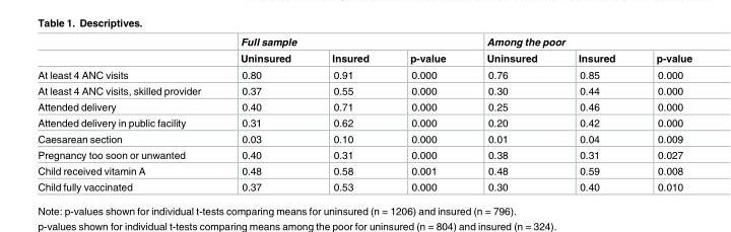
<table><thead><tr><td rowspan="2"></td><td colspan="3">Full sample</td><td colspan="2">Among the poor</td><td rowspan="2">p-value</td></tr><tr><td>Uninsured</td><td>Insured</td><td>p-value</td><td>Uninsured</td><td>Insured</td></tr></thead><tbody><tr><td>At least 4 ANC visits</td><td>0.80</td><td>0.91</td><td>0.000</td><td>0.76</td><td>0.85</td><td>0.000</td></tr><tr><td>At least 4 ANC visits, skilled provider</td><td>0.37</td><td>0.55</td><td>0.000</td><td>0.30</td><td>0.44</td><td>0.000</td></tr><tr><td>Attended delivery</td><td>0.40</td><td>0.71</td><td>0.000</td><td>0.25</td><td>0.46</td><td>0.000</td></tr><tr><td>Attended delivery in public facility</td><td>0.31</td><td>0.62</td><td>0.000</td><td>0.20</td><td>0.42</td><td>0.000</td></tr><tr><td>Caesarean section</td><td>0.03</td><td>0.10</td><td>0.000</td><td>0.01</td><td>0.04</td><td>0.009</td></tr><tr><td>Pregnancy too soon or unwanted</td><td>0.40</td><td>0.31</td><td>0.000</td><td>0.38</td><td>0.31</td><td>0.027</td></tr><tr><td>Child received vitamin A</td><td>0.48</td><td>0.58</td><td>0.001</td><td>0.48</td><td>0.59</td><td>0.008</td></tr><tr><td>Child fully vaccinated</td><td>0.37</td><td>0.53</td><td>0.000</td><td>0.30</td><td>0.40</td><td>0.010</td></tr></tbody></table>